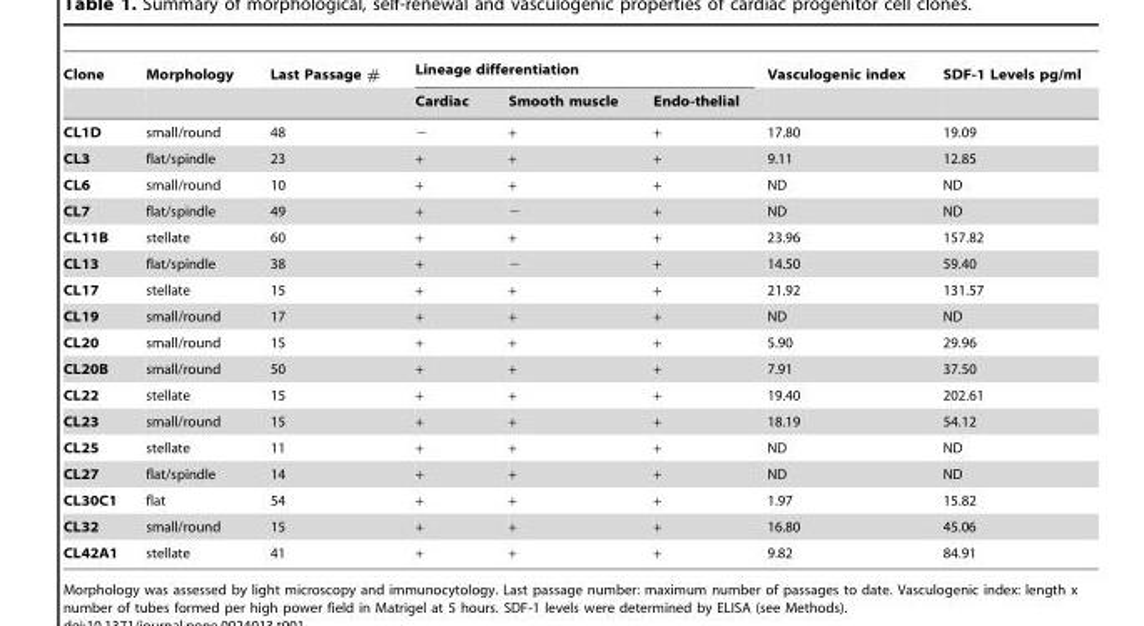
<table><thead><tr><td rowspan="2">Clone</td><td rowspan="2">Morphology</td><td rowspan="2">Last Passage #</td><td colspan="3">Lineage differentiation</td><td rowspan="2">Vasculogenic index</td><td rowspan="2">SDF-1 Levels pg/ml</td></tr><tr><td>Cardiac</td><td>Smooth muscle</td><td>Endo-thelial</td></tr></thead><tbody><tr><td>CL1D</td><td>small/round</td><td>48</td><td>−</td><td>+</td><td>+</td><td>17.80</td><td>19.09</td></tr><tr><td>CL3</td><td>flat/spindle</td><td>23</td><td>+</td><td>+</td><td>+</td><td>9.11</td><td>12.85</td></tr><tr><td>CL6</td><td>small/round</td><td>10</td><td>+</td><td>+</td><td>+</td><td>ND</td><td>ND</td></tr><tr><td>CL7</td><td>flat/spindle</td><td>49</td><td>+</td><td>−</td><td>+</td><td>ND</td><td>ND</td></tr><tr><td>CL11B</td><td>stellate</td><td>60</td><td>+</td><td>+</td><td>+</td><td>23.96</td><td>157.82</td></tr><tr><td>CL13</td><td>flat/spindle</td><td>38</td><td>+</td><td>−</td><td>+</td><td>14.50</td><td>59.40</td></tr><tr><td>CL17</td><td>stellate</td><td>15</td><td>+</td><td>+</td><td>+</td><td>21.92</td><td>131.57</td></tr><tr><td>CL19</td><td>small/round</td><td>17</td><td>+</td><td>+</td><td>+</td><td>ND</td><td>ND</td></tr><tr><td>CL20</td><td>small/round</td><td>15</td><td>+</td><td>+</td><td>+</td><td>5.90</td><td>29.96</td></tr><tr><td>CL20B</td><td>small/round</td><td>50</td><td>+</td><td>+</td><td>+</td><td>7.91</td><td>37.50</td></tr><tr><td>CL22</td><td>stellate</td><td>15</td><td>+</td><td>+</td><td>+</td><td>19.40</td><td>202.61</td></tr><tr><td>CL23</td><td>small/round</td><td>15</td><td>+</td><td>+</td><td>+</td><td>18.19</td><td>54.12</td></tr><tr><td>CL25</td><td>stellate</td><td>11</td><td>+</td><td>+</td><td>+</td><td>ND</td><td>ND</td></tr><tr><td>CL27</td><td>flat/spindle</td><td>14</td><td>+</td><td>+</td><td>+</td><td>ND</td><td>ND</td></tr><tr><td>CL30C1</td><td>flat</td><td>54</td><td>+</td><td>+</td><td>+</td><td>1.97</td><td>15.82</td></tr><tr><td>CL32</td><td>small/round</td><td>15</td><td>+</td><td>+</td><td>+</td><td>16.80</td><td>45.06</td></tr><tr><td>CL42A1</td><td>stellate</td><td>41</td><td>+</td><td>+</td><td>+</td><td>9.82</td><td>84.91</td></tr></tbody></table>